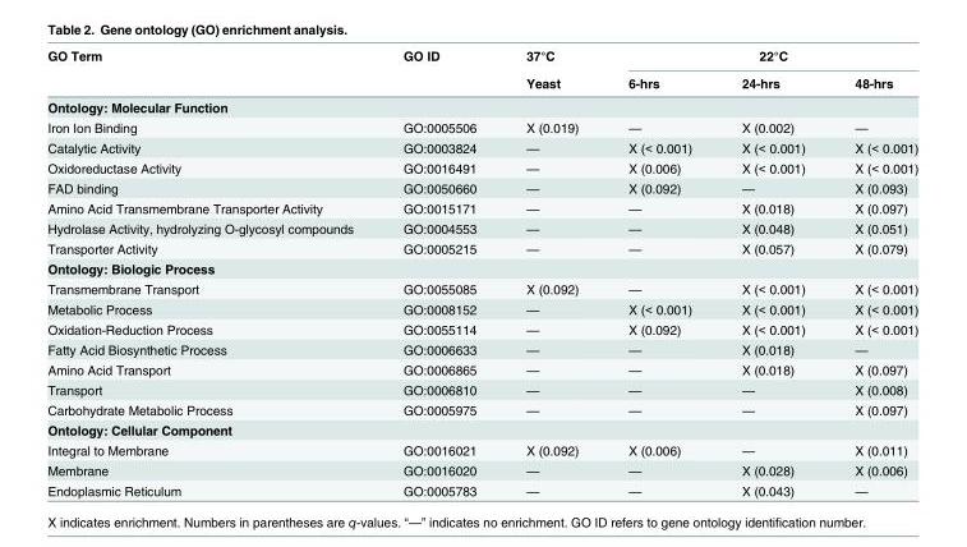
<table><thead><tr><td rowspan="2">GO Term</td><td rowspan="2">GO ID</td><td rowspan="2">37°C Yeast</td><td colspan="3">22°C</td></tr><tr><td>6-hrs</td><td>24-hrs</td><td>48-hrs</td></tr></thead><tbody><tr><td colspan="6">Ontology: Molecular Function</td></tr><tr><td>Iron Ion Binding</td><td>GO:0005506</td><td>X (0.019)</td><td>—</td><td>X (0.002)</td><td>—</td></tr><tr><td>Catalytic Activity</td><td>GO:0003824</td><td>—</td><td>X (&lt; 0.001)</td><td>X (&lt; 0.001)</td><td>X (&lt; 0.001)</td></tr><tr><td>Oxidoreductase Activity</td><td>GO:0016491</td><td>—</td><td>X (0.006)</td><td>X (&lt; 0.001)</td><td>X (&lt; 0.001)</td></tr><tr><td>FAD binding</td><td>GO:0050660</td><td>—</td><td>X (0.092)</td><td>—</td><td>X (0.093)</td></tr><tr><td>Amino Acid Transmembrane Transporter Activity</td><td>GO:0015171</td><td>—</td><td>—</td><td>X (0.018)</td><td>X (0.097)</td></tr><tr><td>Hydrolase Activity, hydrolyzing O-glycosyl compounds</td><td>GO:0004553</td><td>—</td><td>—</td><td>X (0.048)</td><td>X (0.051)</td></tr><tr><td>Transporter Activity</td><td>GO:0005215</td><td>—</td><td>—</td><td>X (0.057)</td><td>X (0.079)</td></tr><tr><td colspan="6">Ontology: Biologic Process</td></tr><tr><td>Transmembrane Transport</td><td>GO:0055085</td><td>X (0.092)</td><td>—</td><td>X (&lt; 0.001)</td><td>X (&lt; 0.001)</td></tr><tr><td>Metabolic Process</td><td>GO:0008152</td><td>—</td><td>X (&lt; 0.001)</td><td>X (&lt; 0.001)</td><td>X (&lt; 0.001)</td></tr><tr><td>Oxidation-Reduction Process</td><td>GO:0055114</td><td>—</td><td>X (0.092)</td><td>X (&lt; 0.001)</td><td>X (&lt; 0.001)</td></tr><tr><td>Fatty Acid Biosynthetic Process</td><td>GO:0006633</td><td>—</td><td>—</td><td>X (0.018)</td><td>—</td></tr><tr><td>Amino Acid Transport</td><td>GO:0006865</td><td>—</td><td>—</td><td>X (0.018)</td><td>X (0.097)</td></tr><tr><td>Transport</td><td>GO:0006810</td><td>—</td><td>—</td><td>—</td><td>X (0.008)</td></tr><tr><td>Carbohydrate Metabolic Process</td><td>GO:0005975</td><td>—</td><td>—</td><td>—</td><td>X (0.097)</td></tr><tr><td colspan="6">Ontology: Cellular Component</td></tr><tr><td>Integral to Membrane</td><td>GO:0016021</td><td>X (0.092)</td><td>X (0.006)</td><td>—</td><td>X (0.011)</td></tr><tr><td>Membrane</td><td>GO:0016020</td><td>—</td><td>—</td><td>X (0.028)</td><td>X (0.006)</td></tr><tr><td>Endoplasmic Reticulum</td><td>GO:0005783</td><td>—</td><td>—</td><td>X (0.043)</td><td>—</td></tr></tbody></table>